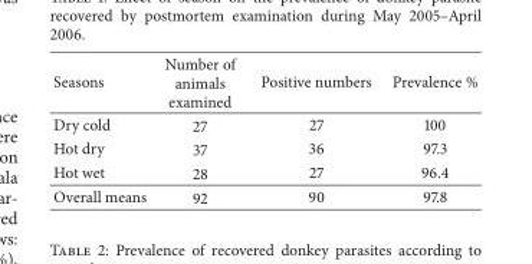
<table><thead><tr><td>Seasons</td><td>Number of animals examined</td><td>Positive numbers</td><td>Prevalence %</td></tr></thead><tbody><tr><td>Dry cold</td><td>27</td><td>27</td><td>100</td></tr><tr><td>Hot dry</td><td>37</td><td>36</td><td>97.3</td></tr><tr><td>Hot wet</td><td>28</td><td>27</td><td>96.4</td></tr><tr><td>Overall means</td><td>92</td><td>90</td><td>97.8</td></tr></tbody></table>